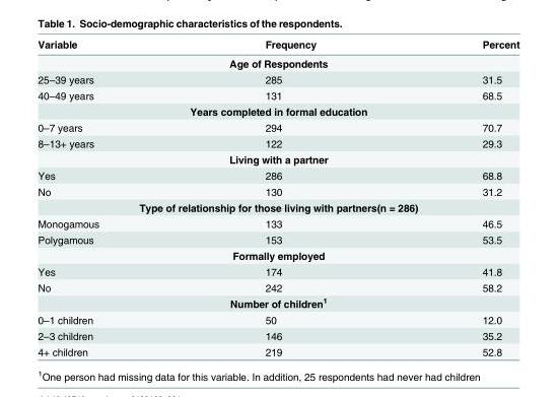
<table><thead><tr><td>Variable</td><td>Frequency</td><td>Percent</td></tr></thead><tbody><tr><td colspan="3">Age of Respondents</td></tr><tr><td>25–39 years</td><td>285</td><td>31.5</td></tr><tr><td>40–49 years</td><td>131</td><td>68.5</td></tr><tr><td colspan="3">Years completed in formal education</td></tr><tr><td>0–7 years</td><td>294</td><td>70.7</td></tr><tr><td>8–13+ years</td><td>122</td><td>29.3</td></tr><tr><td colspan="3">Living with a partner</td></tr><tr><td>Yes</td><td>286</td><td>68.8</td></tr><tr><td>No</td><td>130</td><td>31.2</td></tr><tr><td colspan="3">Type of relationship for those living with partners(n = 286)</td></tr><tr><td>Monogamous</td><td>133</td><td>46.5</td></tr><tr><td>Polygamous</td><td>153</td><td>53.5</td></tr><tr><td colspan="3">Formally employed</td></tr><tr><td>Yes</td><td>174</td><td>41.8</td></tr><tr><td>No</td><td>242</td><td>58.2</td></tr><tr><td colspan="3">Number of children<sup>1</sup></td></tr><tr><td>0–1 children</td><td>50</td><td>12.0</td></tr><tr><td>2–3 children</td><td>146</td><td>35.2</td></tr><tr><td>4+ children</td><td>219</td><td>52.8</td></tr></tbody></table>